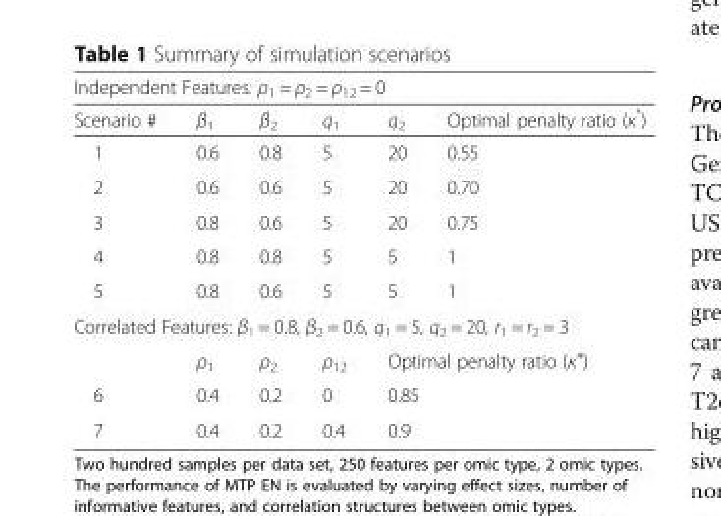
<table><thead><tr><td colspan="6">Independent Features: ρ<sub>1</sub> = ρ<sub>2</sub> = ρ<sub>12</sub> = 0</td></tr><tr><td>Scenario #</td><td>β<sub>1</sub></td><td>β<sub>2</sub></td><td>q<sub>1</sub></td><td>q<sub>2</sub></td><td>Optimal penalty ratio (κ*)</td></tr></thead><tbody><tr><td>1</td><td>0.6</td><td>0.8</td><td>5</td><td>20</td><td>0.55</td></tr><tr><td>2</td><td>0.6</td><td>0.6</td><td>5</td><td>20</td><td>0.70</td></tr><tr><td>3</td><td>0.8</td><td>0.6</td><td>5</td><td>20</td><td>0.75</td></tr><tr><td>4</td><td>0.8</td><td>0.8</td><td>5</td><td>5</td><td>1</td></tr><tr><td>5</td><td>0.8</td><td>0.6</td><td>5</td><td>5</td><td>1</td></tr><tr><td colspan="6">Correlated Features: β<sub>1</sub> = 0.8, β<sub>2</sub> = 0.6, q<sub>1</sub> = 5, q<sub>2</sub> = 20, r<sub>1</sub> = r<sub>2</sub> = 3</td></tr><tr><td></td><td>ρ<sub>1</sub></td><td>ρ<sub>2</sub></td><td>ρ<sub>12</sub></td><td colspan="2">Optimal penalty ratio (κ∗)</td></tr><tr><td>6</td><td>0.4</td><td>0.2</td><td>0</td><td colspan="2">0.85</td></tr><tr><td>7</td><td>0.4</td><td>0.2</td><td>0.4</td><td colspan="2">0.9</td></tr></tbody></table>